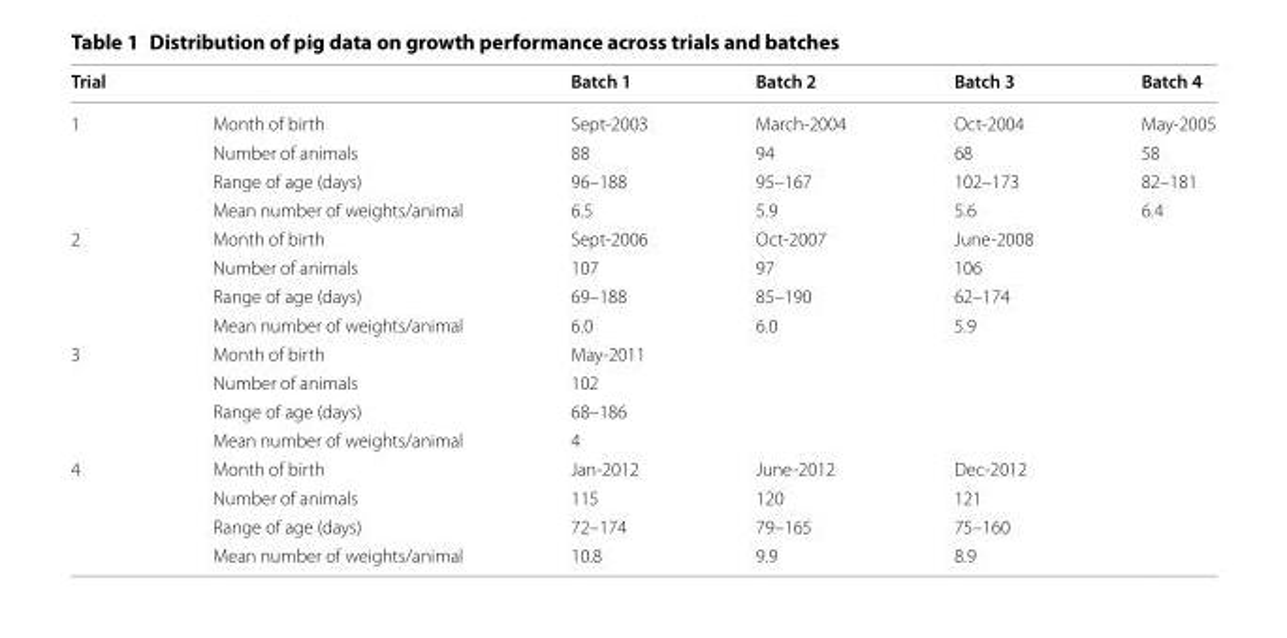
<table><thead><tr><td colspan="2">Trial</td><td rowspan="2">Batch 1 Sept-2003</td><td rowspan="2">Batch 2 March-2004</td><td rowspan="2">Batch 3 Oct-2004</td><td rowspan="2">Batch 4 May-2005</td></tr><tr><td>1</td><td>Month of birth</td></tr></thead><tbody><tr><td></td><td>Number of animals</td><td>88</td><td>94</td><td>68</td><td>58</td></tr><tr><td></td><td>Range of age (days)</td><td>96–188</td><td>95–167</td><td>102–173</td><td>82–181</td></tr><tr><td></td><td>Mean number of weights/animal</td><td>6.5</td><td>5.9</td><td>5.6</td><td>6.4</td></tr><tr><td rowspan="4">2</td><td>Month of birth</td><td>Sept-2006</td><td>Oct-2007</td><td>June-2008</td><td></td></tr><tr><td>Number of animals</td><td>107</td><td>97</td><td>106</td><td></td></tr><tr><td>Range of age (days)</td><td>69–188</td><td>85–190</td><td>62–174</td><td></td></tr><tr><td>Mean number of weights/animal</td><td>6.0</td><td>6.0</td><td>5.9</td><td></td></tr><tr><td rowspan="4">3</td><td>Month of birth</td><td>May-2011</td><td></td><td></td><td></td></tr><tr><td>Number of animals</td><td>102</td><td></td><td></td><td></td></tr><tr><td>Range of age (days)</td><td>68–186</td><td></td><td></td><td></td></tr><tr><td>Mean number of weights/animal</td><td>4</td><td></td><td></td><td></td></tr><tr><td rowspan="4">4</td><td>Month of birth</td><td>Jan-2012</td><td>June-2012</td><td>Dec-2012</td><td></td></tr><tr><td>Number of animals</td><td>115</td><td>120</td><td>121</td><td></td></tr><tr><td>Range of age (days)</td><td>72–174</td><td>79–165</td><td>75–160</td><td></td></tr><tr><td>Mean number of weights/animal</td><td>10.8</td><td>9.9</td><td>8.9</td><td></td></tr></tbody></table>